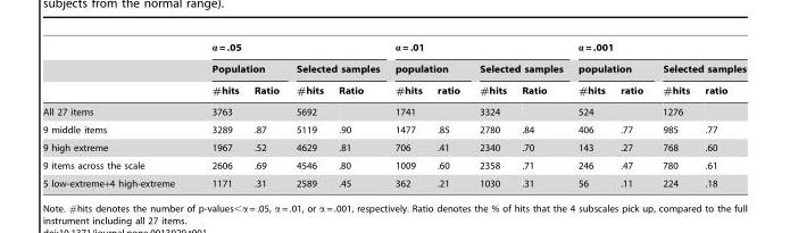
<table><thead><tr><td rowspan="3"></td><td colspan="4">α = .05</td><td colspan="4">α = .01</td><td colspan="4">α = .001</td></tr><tr><td colspan="2">Population</td><td colspan="2">Selected samples</td><td colspan="2">population</td><td colspan="2">Selected samples</td><td colspan="2">population</td><td colspan="2">Selected samples</td></tr><tr><td>#hits</td><td>Ratio</td><td>#hits</td><td>Ratio</td><td>#hits</td><td>ratio</td><td>#hits</td><td>Ratio</td><td>#hits</td><td>ratio</td><td>#hits</td><td>ratio</td></tr></thead><tbody><tr><td>All 27 items</td><td>3763</td><td></td><td>5692</td><td></td><td>1741</td><td></td><td>3324</td><td></td><td>524</td><td></td><td>1276</td><td></td></tr><tr><td>9 middle items</td><td>3289</td><td>.87</td><td>5119</td><td>.90</td><td>1477</td><td>.85</td><td>2780</td><td>.84</td><td>406</td><td>.77</td><td>985</td><td>.77</td></tr><tr><td>9 high extreme</td><td>1967</td><td>.52</td><td>4629</td><td>.81</td><td>706</td><td>.41</td><td>2340</td><td>.70</td><td>143</td><td>.27</td><td>768</td><td>.60</td></tr><tr><td>9 items across the scale</td><td>2606</td><td>.69</td><td>4546</td><td>.80</td><td>1009</td><td>.60</td><td>2358</td><td>.71</td><td>246</td><td>.47</td><td>780</td><td>.61</td></tr><tr><td>5 low-extreme+4 high-extreme</td><td>1171</td><td>.31</td><td>2589</td><td>.45</td><td>362</td><td>.21</td><td>1030</td><td>.31</td><td>56</td><td>.11</td><td>224</td><td>.18</td></tr></tbody></table>